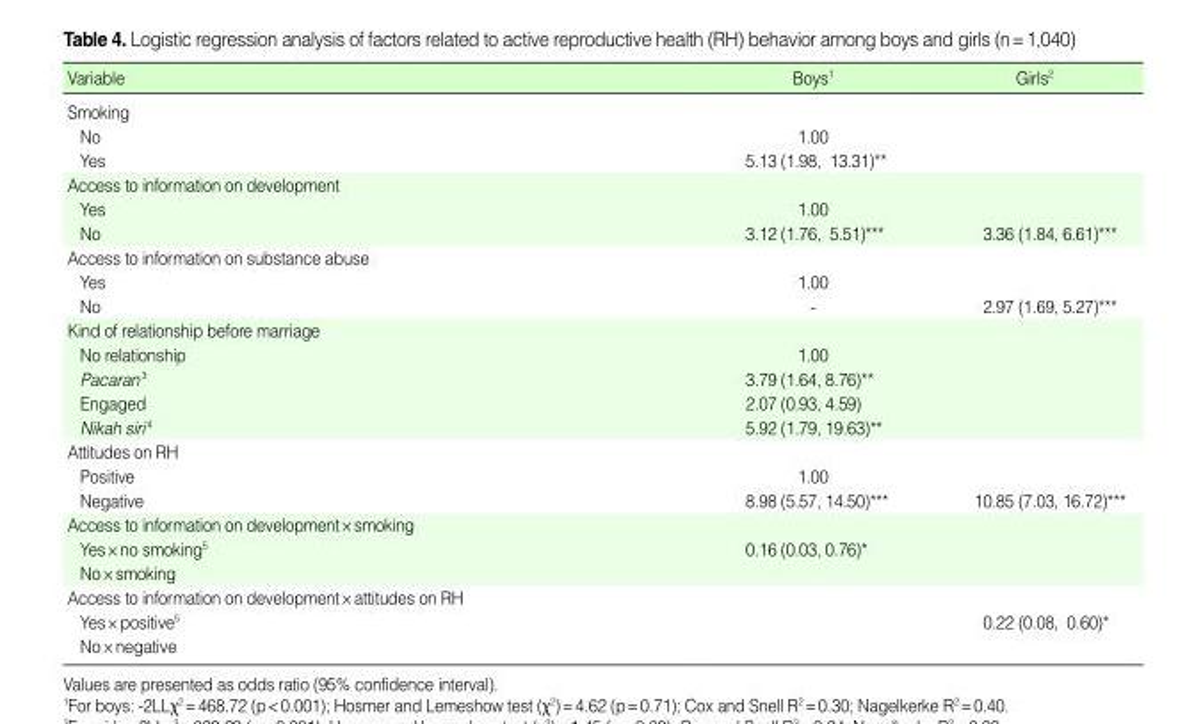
<table><thead><tr><td>Variable</td><td>Boys<sup>1</sup></td><td>Girls<sup>2</sup></td></tr></thead><tbody><tr><td colspan="3">Smoking</td></tr><tr><td>No</td><td>1.00</td><td></td></tr><tr><td>Yes</td><td>5.13 (1.98, 13.31)**</td><td></td></tr><tr><td colspan="3">Access to information on development</td></tr><tr><td>Yes</td><td>1.00</td><td></td></tr><tr><td>No</td><td>3.12 (1.76, 5.51)***</td><td>3.36 (1.84, 6.61)***</td></tr><tr><td colspan="3">Access to information on substance abuse</td></tr><tr><td>Yes</td><td>1.00</td><td></td></tr><tr><td>No</td><td>-</td><td>2.97 (1.69, 5.27)***</td></tr><tr><td colspan="3">Kind of relationship before marriage</td></tr><tr><td>No relationship</td><td>1.00</td><td></td></tr><tr><td>Pacaran <sup>3</sup></td><td>3.79 (1.64, 8.76)**</td><td></td></tr><tr><td>Engaged</td><td>2.07 (0.93, 4.59)</td><td></td></tr><tr><td>Nikah siri <sup>4</sup></td><td>5.92 (1.79, 19.63)**</td><td></td></tr><tr><td colspan="3">Attitudes on RH</td></tr><tr><td>Positive</td><td>1.00</td><td></td></tr><tr><td>Negative</td><td>8.98 (5.57, 14.50)***</td><td>10.85 (7.03, 16.72)***</td></tr><tr><td colspan="3">Access to information on development×smoking</td></tr><tr><td>Yes×no smoking5</td><td>0.16 (0.03, 0.76)*</td><td></td></tr><tr><td colspan="3">No×smoking</td></tr><tr><td colspan="3">Access to information on development×attitudes on RH</td></tr><tr><td>Yes×positive5</td><td></td><td>0.22 (0.08, 0.60)*</td></tr><tr><td>No×negative</td><td></td><td></td></tr></tbody></table>